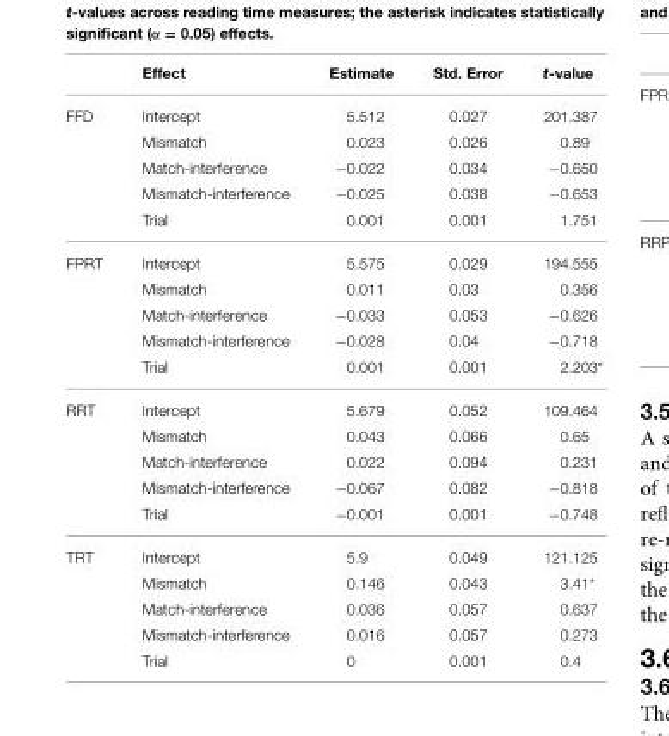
<table><thead><tr><td></td><td>Effect</td><td>Estimate</td><td>Std. Error</td><td>t-value</td></tr></thead><tbody><tr><td rowspan="5">FFD</td><td>Intercept</td><td>5.512</td><td>0.027</td><td>201.387</td></tr><tr><td>Mismatch</td><td>0.023</td><td>0.026</td><td>0.89</td></tr><tr><td>Match-interference</td><td>−0.022</td><td>0.034</td><td>−0.650</td></tr><tr><td>Mismatch-interference</td><td>−0.025</td><td>0.038</td><td>−0.653</td></tr><tr><td>Trial</td><td>0.001</td><td>0.001</td><td>1.751</td></tr><tr><td rowspan="5">FPRT</td><td>Intercept</td><td>5.575</td><td>0.029</td><td>194.555</td></tr><tr><td>Mismatch</td><td>0.011</td><td>0.03</td><td>0.356</td></tr><tr><td>Match-interference</td><td>−0.033</td><td>0.053</td><td>−0.626</td></tr><tr><td>Mismatch-interference</td><td>−0.028</td><td>0.04</td><td>−0.718</td></tr><tr><td>Trial</td><td>0.001</td><td>0.001</td><td>2.203*</td></tr><tr><td rowspan="5">RRT</td><td>Intercept</td><td>5.679</td><td>0.052</td><td>109.464</td></tr><tr><td>Mismatch</td><td>0.043</td><td>0.066</td><td>0.65</td></tr><tr><td>Match-interference</td><td>0.022</td><td>0.094</td><td>0.231</td></tr><tr><td>Mismatch-interference</td><td>−0.067</td><td>0.082</td><td>−0.818</td></tr><tr><td>Trial</td><td>−0.001</td><td>0.001</td><td>−0.748</td></tr><tr><td rowspan="5">TRT</td><td>Intercept</td><td>5.9</td><td>0.049</td><td>121.125</td></tr><tr><td>Mismatch</td><td>0.146</td><td>0.043</td><td>3.41*</td></tr><tr><td>Match-interference</td><td>0.036</td><td>0.057</td><td>0.637</td></tr><tr><td>Mismatch-interference</td><td>0.016</td><td>0.057</td><td>0.273</td></tr><tr><td>Trial</td><td>0</td><td>0.001</td><td>0.4</td></tr></tbody></table>